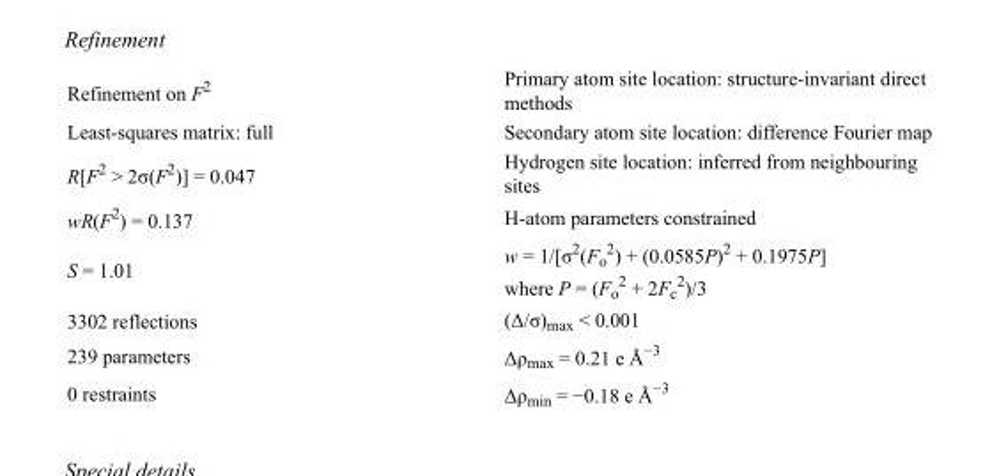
<table><tbody><tr><td>Refinement on F<sup>2</sup></td><td>Primary atom site location: structure-invariant direct methods</td></tr><tr><td>Least-squares matrix: full</td><td>Secondary atom site location: difference Fourier map</td></tr><tr><td>R[F<sup>2</sup> &gt; 2σ(F<sup>2</sup>)] = 0.047</td><td>Hydrogen site location: inferred from neighbouring sites</td></tr><tr><td>wR(F<sup>2</sup>) = 0.137</td><td>H-atom parameters constrained</td></tr><tr><td>S = 1.01</td><td>w = 1/[σ<sup>2</sup>(F<sub>o</sub> <sup>2</sup>) + (0.0585P)<sup>2</sup> + 0.1975P] where P = (F<sub>o</sub> <sup>2</sup> + 2F<sub>c</sub> <sup>2</sup>)/3</td></tr><tr><td>3302 reflections</td><td>(Δ/σ)<sub>max</sub> &lt; 0.001</td></tr><tr><td>239 parameters</td><td>Δρ<sub>max</sub> = 0.21 e Å<sup>−3</sup></td></tr><tr><td>0 restraints</td><td>Δρ<sub>min</sub> = −0.18 e Å<sup>−3</sup></td></tr></tbody></table>